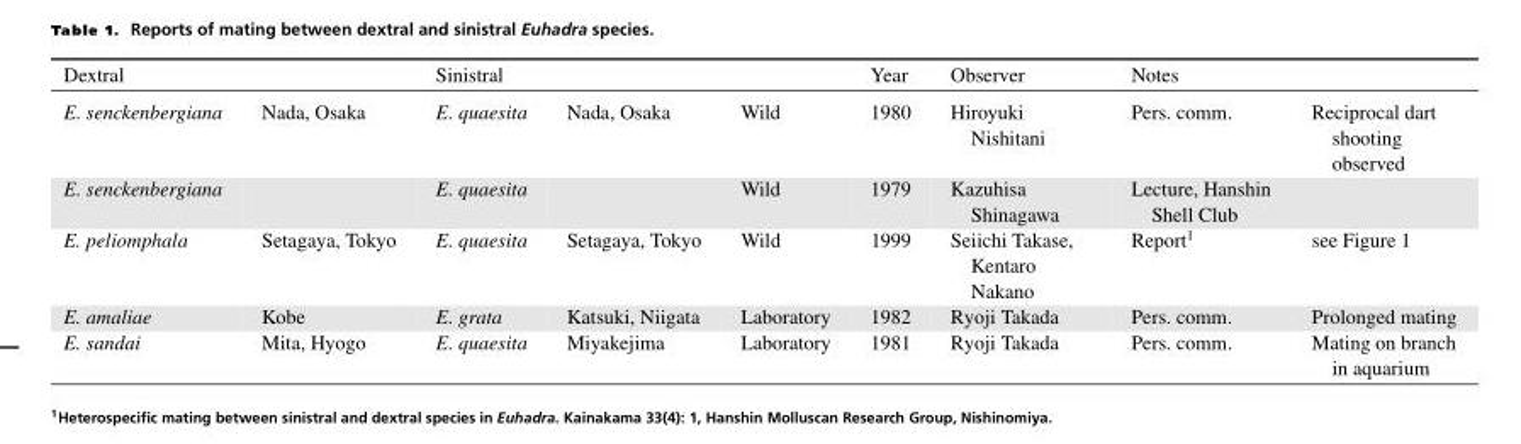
<table><thead><tr><td>Dextral</td><td></td><td>Sinistral</td><td></td><td></td><td>Year</td><td>Observer</td><td>Notes</td><td></td></tr></thead><tbody><tr><td>E. senckenbergiana</td><td>Nada, Osaka</td><td>E. quaesita</td><td>Nada, Osaka</td><td>Wild</td><td>1980</td><td>Hiroyuki Nishitani</td><td>Pers. comm.</td><td>Reciprocal dart shooting observed</td></tr><tr><td>E. senckenbergiana</td><td></td><td>E. quaesita</td><td></td><td>Wild</td><td>1979</td><td>Kazuhisa Shinagawa</td><td>Lecture, Hanshin Shell Club</td><td></td></tr><tr><td>E. peliomphala</td><td>Setagaya, Tokyo</td><td>E. quaesita</td><td>Setagaya, Tokyo</td><td>Wild</td><td>1999</td><td>Seiichi Takase, Kentaro Nakano</td><td>Report<sup>1</sup></td><td>see Figure 1</td></tr><tr><td>E. amaliae</td><td>Kobe</td><td>E. grata</td><td>Katsuki, Niigata</td><td>Laboratory</td><td>1982</td><td>Ryoji Takada</td><td>Pers. comm.</td><td>Prolonged mating</td></tr><tr><td>E. sandai</td><td>Mita, Hyogo</td><td>E. quaesita</td><td>Miyakejima</td><td>Laboratory</td><td>1981</td><td>Ryoji Takada</td><td>Pers. comm.</td><td>Mating on branch in aquarium</td></tr></tbody></table>